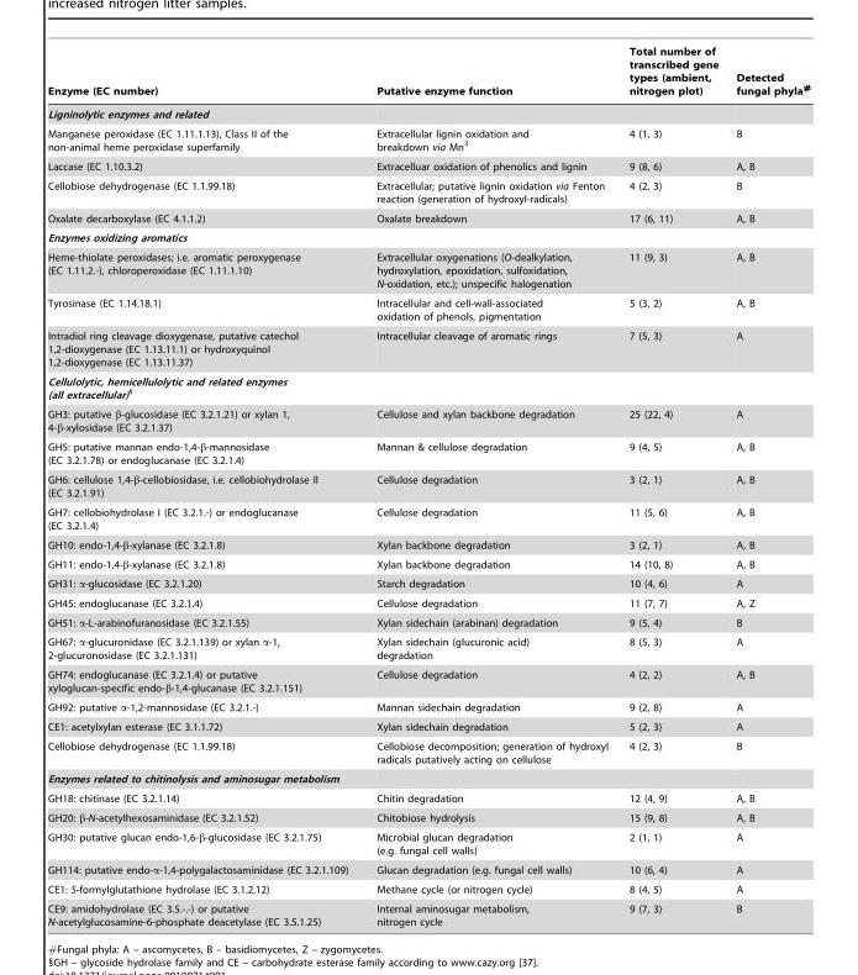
<table><thead><tr><td>Enzyme (EC number)</td><td>Putative enzyme function</td><td>Total number of transcribed gene types (ambient, nitrogen plot)</td><td>Detected fungal phyla#</td></tr></thead><tbody><tr><td colspan="4">Ligninolytic enzymes and related</td></tr><tr><td>Manganese peroxidase (EC 1.11.1.13), Class II of the non-animal heme peroxidase superfamily</td><td>Extracellular lignin oxidation and breakdown via Mn3</td><td>4 (1, 3)</td><td>B</td></tr><tr><td>Laccase (EC 1.10.3.2)</td><td>Extracelluar oxidation of phenolics and lignin</td><td>9 (8, 6)</td><td>A, B</td></tr><tr><td>Cellobiose dehydrogenase (EC 1.1.99.18)</td><td>Extracellular; putative lignin oxidation via Fenton reaction (generation of hydroxyl-radicals)</td><td>4 (2, 3)</td><td>B</td></tr><tr><td>Oxalate decarboxylase (EC 4.1.1.2)</td><td>Oxalate breakdown</td><td>17 (6, 11)</td><td>A, B</td></tr><tr><td colspan="4">Enzymes oxidizing aromatics</td></tr><tr><td>Heme-thiolate peroxidases; i.e. aromatic peroxygenase (EC 1.11.2.-), chloroperoxidase (EC 1.11.1.10)</td><td>Extracellular oxygenations (O-dealkylation, hydroxylation, epoxidation, sulfoxidation, N-oxidation, etc.); unspecific halogenation</td><td>11 (9, 3)</td><td>A, B</td></tr><tr><td>Tyrosinase (EC 1.14.18.1)</td><td>Intracellular and cell-wall-associated oxidation of phenols, pigmentation</td><td>5 (3, 2)</td><td>A, B</td></tr><tr><td>Intradiol ring cleavage dioxygenase, putative catechol 1,2-dioxygenase (EC 1.13.11.1) or hydroxyquinol 1,2-dioxygenase (EC 1.13.11.37)</td><td>Intracellular cleavage of aromatic rings</td><td>7 (5, 3)</td><td>A</td></tr><tr><td colspan="4">Cellulolytic, hemicellulolytic and related enzymes (all extracellular)§</td></tr><tr><td>GH3: putative β-glucosidase (EC 3.2.1.21) or xylan 1, 4-β-xylosidase (EC 3.2.1.37)</td><td>Cellulose and xylan backbone degradation</td><td>25 (22, 4)</td><td>A</td></tr><tr><td>GH5: putative mannan endo-1,4-β-mannosidase (EC 3.2.1.78) or endoglucanase (EC 3.2.1.4)</td><td>Mannan &amp; cellulose degradation</td><td>9 (4, 5)</td><td>A, B</td></tr><tr><td>GH6: cellulose 1,4-β-cellobiosidase, i.e. cellobiohydrolase II (EC 3.2.1.91)</td><td>Cellulose degradation</td><td>3 (2, 1)</td><td>A, B</td></tr><tr><td>GH7: cellobiohydrolase I (EC 3.2.1.-) or endoglucanase (EC 3.2.1.4)</td><td>Cellulose degradation</td><td>11 (5, 6)</td><td>A, B</td></tr><tr><td>GH10: endo-1,4-β-xylanase (EC 3.2.1.8)</td><td>Xylan backbone degradation</td><td>3 (2, 1)</td><td>A, B</td></tr><tr><td>GH11: endo-1,4-β-xylanase (EC 3.2.1.8)</td><td>Xylan backbone degradation</td><td>14 (10, 8)</td><td>A, B</td></tr><tr><td>GH31: α-glucosidase (EC 3.2.1.20)</td><td>Starch degradation</td><td>10 (4, 6)</td><td>A</td></tr><tr><td>GH45: endoglucanase (EC 3.2.1.4)</td><td>Cellulose degradation</td><td>11 (7, 7)</td><td>A, Z</td></tr><tr><td>GH51: α-L-arabinofuranosidase (EC 3.2.1.55)</td><td>Xylan sidechain (arabinan) degradation</td><td>9 (5, 4)</td><td>B</td></tr><tr><td>GH67: α-glucuronidase (EC 3.2.1.139) or xylan α-1, 2-glucuronosidase (EC 3.2.1.131)</td><td>Xylan sidechain (glucuronic acid) degradation</td><td>8 (5, 3)</td><td>A</td></tr><tr><td>GH74: endoglucanase (EC 3.2.1.4) or putative xyloglucan-specific endo-β-1,4-glucanase (EC 3.2.1.151)</td><td>Cellulose degradation</td><td>4 (2, 2)</td><td>A, B</td></tr><tr><td>GH92: putative α-1,2-mannosidase (EC 3.2.1.-)</td><td>Mannan sidechain degradation</td><td>9 (2, 8)</td><td>A</td></tr><tr><td>CE1: acetylxylan esterase (EC 3.1.1.72)</td><td>Xylan sidechain degradation</td><td>5 (2, 3)</td><td>A</td></tr><tr><td>Cellobiose dehydrogenase (EC 1.1.99.18)</td><td>Cellobiose decomposition; generation of hydroxyl radicals putatively acting on cellulose</td><td>4 (2, 3)</td><td>B</td></tr><tr><td colspan="4">Enzymes related to chitinolysis and aminosugar metabolism</td></tr><tr><td>GH18: chitinase (EC 3.2.1.14)</td><td>Chitin degradation</td><td>12 (4, 9)</td><td>A, B</td></tr><tr><td>GH20: β-N-acetylhexosaminidase (EC 3.2.1.52)</td><td>Chitobiose hydrolysis</td><td>15 (9, 8)</td><td>A, B</td></tr><tr><td>GH30: putative glucan endo-1,6-β-glucosidase (EC 3.2.1.75)</td><td>Microbial glucan degradation (e.g. fungal cell walls)</td><td>2 (1, 1)</td><td>A</td></tr><tr><td>GH114: putative endo-α-1,4-polygalactosaminidase (EC 3.2.1.109)</td><td>Glucan degradation (e.g. fungal cell walls)</td><td>10 (6, 4)</td><td>A</td></tr><tr><td>CE1: S-formylglutathione hydrolase (EC 3.1.2.12)</td><td>Methane cycle (or nitrogen cycle)</td><td>8 (4, 5)</td><td>A</td></tr><tr><td>CE9: amidohydrolase (EC 3.5.-.-) or putative N-acetylglucosamine-6-phosphate deacetylase (EC 3.5.1.25)</td><td>Internal aminosugar metabolism, nitrogen cycle</td><td>9 (7, 3)</td><td>B</td></tr></tbody></table>